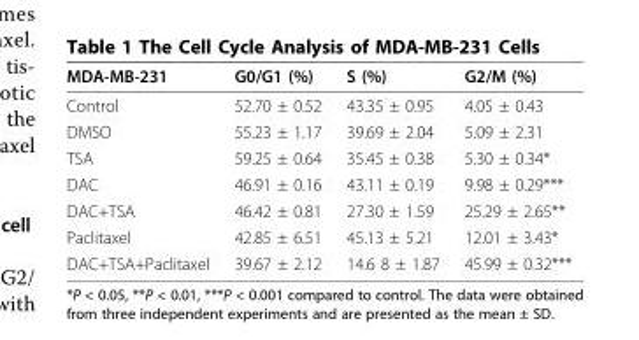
<table><thead><tr><td>MDA-MB-231</td><td>G0/G1 (%)</td><td>S (%)</td><td>G2/M (%)</td></tr></thead><tbody><tr><td>Control</td><td>52.70 ± 0.52</td><td>43.35 ± 0.95</td><td>4.05 ± 0.43</td></tr><tr><td>DMSO</td><td>55.23 ± 1.17</td><td>39.69 ± 2.04</td><td>5.09 ± 2.31</td></tr><tr><td>TSA</td><td>59.25 ± 0.64</td><td>35.45 ± 0.38</td><td>5.30 ± 0.34*</td></tr><tr><td>DAC</td><td>46.91 ± 0.16</td><td>43.11 ± 0.19</td><td>9.98 ± 0.29***</td></tr><tr><td>DAC+TSA</td><td>46.42 ± 0.81</td><td>27.30 ± 1.59</td><td>25.29 ± 2.65**</td></tr><tr><td>Paclitaxel</td><td>42.85 ± 6.51</td><td>45.13 ± 5.21</td><td>12.01 ± 3.43*</td></tr><tr><td>DAC+TSA+Paclitaxel</td><td>39.67 ± 2.12</td><td>14.6 8 ± 1.87</td><td>45.99 ± 0.32***</td></tr></tbody></table>